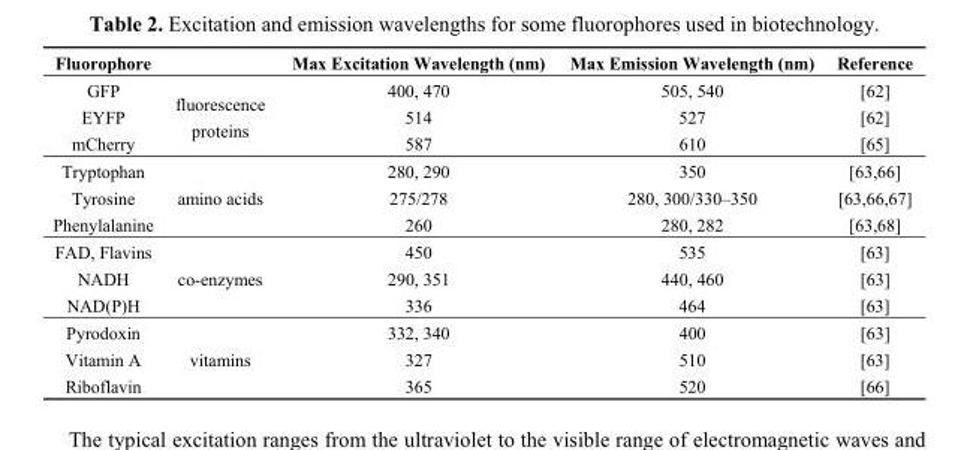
<table><thead><tr><td>Fluorophore</td><td></td><td>Max Excitation Wavelength (nm)</td><td>Max Emission Wavelength (nm)</td><td>Reference</td></tr></thead><tbody><tr><td>GFP</td><td rowspan="3">fluorescence proteins</td><td>400, 470</td><td>505, 540</td><td>[62]</td></tr><tr><td>EYFP</td><td>514</td><td>527</td><td>[62]</td></tr><tr><td>mCherry</td><td>587</td><td>610</td><td>[65]</td></tr><tr><td>Tryptophan</td><td rowspan="3">amino acids</td><td>280, 290</td><td>350</td><td>[63,66]</td></tr><tr><td>Tyrosine</td><td>275/278</td><td>280, 300/330–350</td><td>[63,66,67]</td></tr><tr><td>Phenylalanine</td><td>260</td><td>280, 282</td><td>[63,68]</td></tr><tr><td>FAD, Flavins</td><td rowspan="3">co-enzymes</td><td>450</td><td>535</td><td>[63]</td></tr><tr><td>NADH</td><td>290, 351</td><td>440, 460</td><td>[63]</td></tr><tr><td>NAD(P)H</td><td>336</td><td>464</td><td>[63]</td></tr><tr><td>Pyrodoxin</td><td rowspan="3">vitamins</td><td>332, 340</td><td>400</td><td>[63]</td></tr><tr><td>Vitamin A</td><td>327</td><td>510</td><td>[63]</td></tr><tr><td>Riboflavin</td><td>365</td><td>520</td><td>[66]</td></tr></tbody></table>